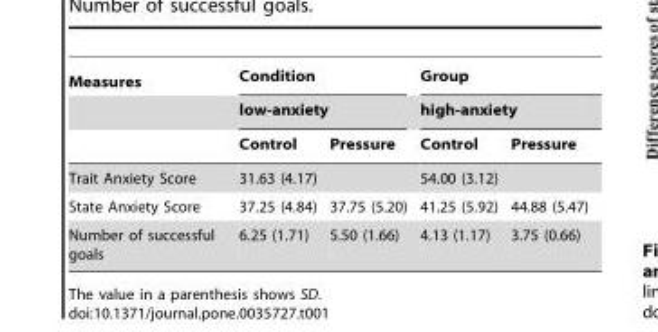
<table><thead><tr><td rowspan="3">Measures</td><td rowspan="2" colspan="2">Condition low-anxiety</td><td rowspan="2" colspan="2">Group high-anxiety</td></tr><tr></tr><tr><td>Control</td><td>Pressure</td><td>Control</td><td>Pressure</td></tr></thead><tbody><tr><td>Trait Anxiety Score</td><td colspan="2">31.63 (4.17)</td><td colspan="2">54.00 (3.12)</td></tr><tr><td>State Anxiety Score</td><td>37.25 (4.84)</td><td>37.75 (5.20)</td><td>41.25 (5.92)</td><td>44.88 (5.47)</td></tr><tr><td>Number of successful goals</td><td>6.25 (1.71)</td><td>5.50 (1.66)</td><td>4.13 (1.17)</td><td>3.75 (0.66)</td></tr></tbody></table>